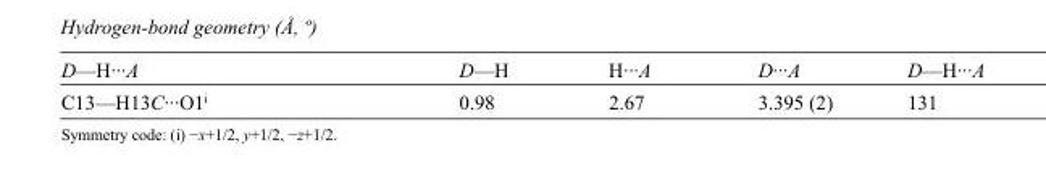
<table><tbody><tr><td>D—H···A</td><td>D—H</td><td>H···A</td><td>D···A</td><td>D—H···A</td></tr><tr><td>C13—H13C···O1<sup>i</sup></td><td>0.98</td><td>2.67</td><td>3.395 (2)</td><td>131</td></tr></tbody></table>